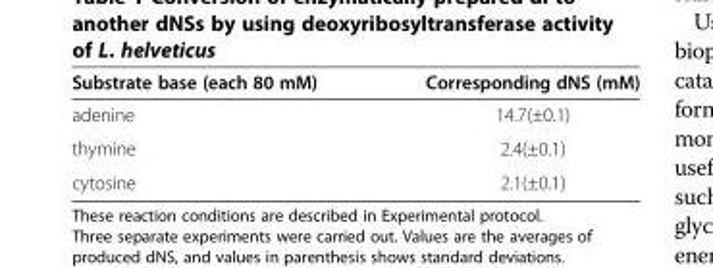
<table><thead><tr><td>Substrate base (each 80 mM)</td><td>Corresponding dNS (mM)</td></tr></thead><tbody><tr><td>adenine</td><td>14.7(±0.1)</td></tr><tr><td>thymine</td><td>2.4(±0.1)</td></tr><tr><td>cytosine</td><td>2.1(±0.1)</td></tr></tbody></table>